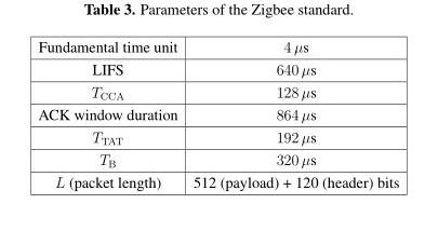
<table><tbody><tr><td>Fundamental time unit</td><td>4 µs</td></tr><tr><td>LIFS</td><td>640 µs</td></tr><tr><td>T<sub>CCA</sub></td><td>128 µs</td></tr><tr><td>ACK window duration</td><td>864 µs</td></tr><tr><td>T<sub>TAT</sub></td><td>192 µs</td></tr><tr><td>T<sub>B</sub></td><td>320 µs</td></tr><tr><td>L (packet length)</td><td>512 (payload) + 120 (header) bits</td></tr></tbody></table>